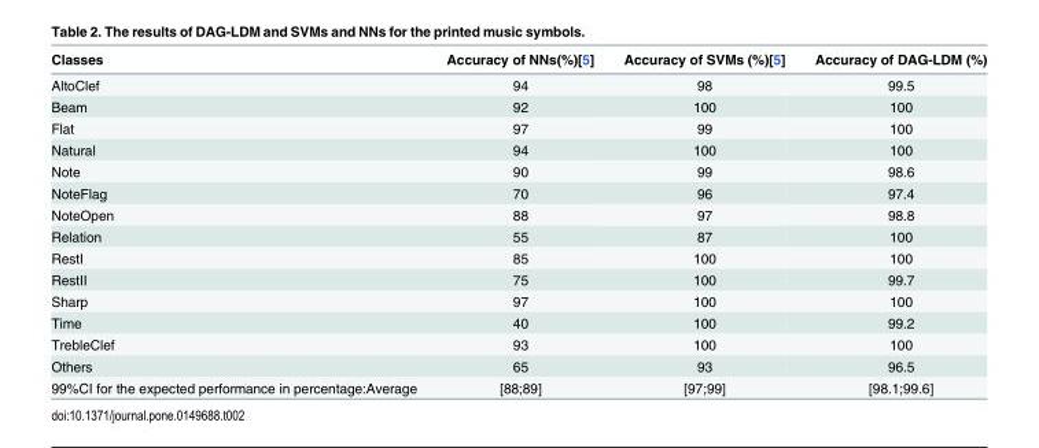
<table><thead><tr><td>Classes</td><td>Accuracy of NNs(%)[5]</td><td>Accuracy of SVMs (%)[5]</td><td>Accuracy of DAG-LDM (%)</td></tr></thead><tbody><tr><td>AltoClef</td><td>94</td><td>98</td><td>99.5</td></tr><tr><td>Beam</td><td>92</td><td>100</td><td>100</td></tr><tr><td>Flat</td><td>97</td><td>99</td><td>100</td></tr><tr><td>Natural</td><td>94</td><td>100</td><td>100</td></tr><tr><td>Note</td><td>90</td><td>99</td><td>98.6</td></tr><tr><td>NoteFlag</td><td>70</td><td>96</td><td>97.4</td></tr><tr><td>NoteOpen</td><td>88</td><td>97</td><td>98.8</td></tr><tr><td>Relation</td><td>55</td><td>87</td><td>100</td></tr><tr><td>RestI</td><td>85</td><td>100</td><td>100</td></tr><tr><td>RestII</td><td>75</td><td>100</td><td>99.7</td></tr><tr><td>Sharp</td><td>97</td><td>100</td><td>100</td></tr><tr><td>Time</td><td>40</td><td>100</td><td>99.2</td></tr><tr><td>TrebleClef</td><td>93</td><td>100</td><td>100</td></tr><tr><td>Others</td><td>65</td><td>93</td><td>96.5</td></tr><tr><td>99%CI for the expected performance in percentage:Average</td><td>[88;89]</td><td>[97;99]</td><td>[98.1;99.6]</td></tr></tbody></table>